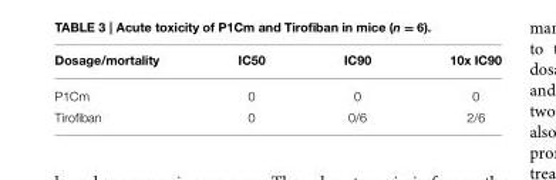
<table><thead><tr><td>Dosage/mortality</td><td>IC50</td><td>IC90</td><td>10x IC90</td></tr></thead><tbody><tr><td>P1Cm</td><td>0</td><td>0</td><td>0</td></tr><tr><td>Tirofiban</td><td>0</td><td>0/6</td><td>2/6</td></tr></tbody></table>